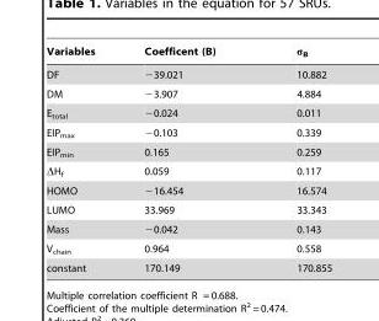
<table><thead><tr><td>Variables</td><td>Coefficent (B)</td><td>σ<sub>B</sub></td></tr></thead><tbody><tr><td>DF</td><td>−39.021</td><td>10.882</td></tr><tr><td>DM</td><td>−3.907</td><td>4.884</td></tr><tr><td>E<sub>total</sub></td><td>−0.024</td><td>0.011</td></tr><tr><td>EIP<sub>max</sub></td><td>−0.103</td><td>0.339</td></tr><tr><td>EIP<sub>min</sub></td><td>0.165</td><td>0.259</td></tr><tr><td>ΔH<sub>f</sub></td><td>0.059</td><td>0.117</td></tr><tr><td>HOMO</td><td>−16.454</td><td>16.574</td></tr><tr><td>LUMO</td><td>33.969</td><td>33.343</td></tr><tr><td>Mass</td><td>−0.042</td><td>0.143</td></tr><tr><td>V<sub>chain</sub></td><td>0.964</td><td>0.558</td></tr><tr><td>constant</td><td>170.149</td><td>170.855</td></tr></tbody></table>